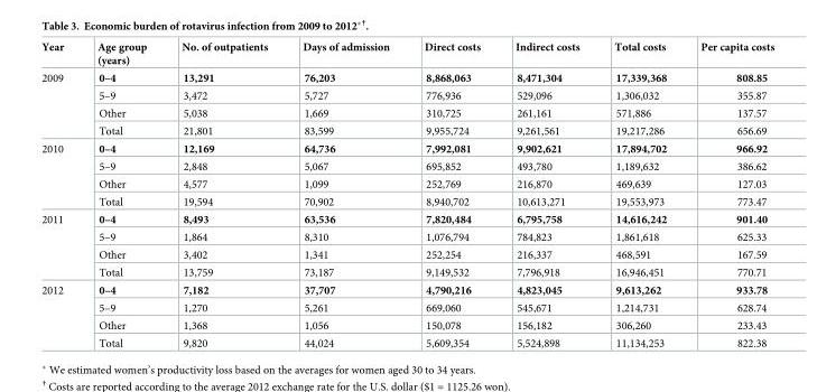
<table><thead><tr><td>Year</td><td>Age group (years)</td><td>No. of outpatients</td><td>Days of admission</td><td>Direct costs</td><td>Indirect costs</td><td>Total costs</td><td>Per capita costs</td></tr></thead><tbody><tr><td rowspan="4">2009</td><td>0–4</td><td>13,291</td><td>76,203</td><td>8,868,063</td><td>8,471,304</td><td>17,339,368</td><td>808.85</td></tr><tr><td>5–9</td><td>3,472</td><td>5,727</td><td>776,936</td><td>529,096</td><td>1,306,032</td><td>355.87</td></tr><tr><td>Other</td><td>5,038</td><td>1,669</td><td>310,725</td><td>261,161</td><td>571,886</td><td>137.57</td></tr><tr><td>Total</td><td>21,801</td><td>83,599</td><td>9,955,724</td><td>9,261,561</td><td>19,217,286</td><td>656.69</td></tr><tr><td rowspan="4">2010</td><td>0–4</td><td>12,169</td><td>64,736</td><td>7,992,081</td><td>9,902,621</td><td>17,894,702</td><td>966.92</td></tr><tr><td>5–9</td><td>2,848</td><td>5,067</td><td>695,852</td><td>493,780</td><td>1,189,632</td><td>386.62</td></tr><tr><td>Other</td><td>4,577</td><td>1,099</td><td>252,769</td><td>216,870</td><td>469,639</td><td>127.03</td></tr><tr><td>Total</td><td>19,594</td><td>70,902</td><td>8,940,702</td><td>10,613,271</td><td>19,553,973</td><td>773.47</td></tr><tr><td rowspan="4">2011</td><td>0–4</td><td>8,493</td><td>63,536</td><td>7,820,484</td><td>6,795,758</td><td>14,616,242</td><td>901.40</td></tr><tr><td>5–9</td><td>1,864</td><td>8,310</td><td>1,076,794</td><td>784,823</td><td>1,861,618</td><td>625.33</td></tr><tr><td>Other</td><td>3,402</td><td>1,341</td><td>252,254</td><td>216,337</td><td>468,591</td><td>167.59</td></tr><tr><td>Total</td><td>13,759</td><td>73,187</td><td>9,149,532</td><td>7,796,918</td><td>16,946,451</td><td>770.71</td></tr><tr><td rowspan="4">2012</td><td>0–4</td><td>7,182</td><td>37,707</td><td>4,790,216</td><td>4,823,045</td><td>9,613,262</td><td>933.78</td></tr><tr><td>5–9</td><td>1,270</td><td>5,261</td><td>669,060</td><td>545,671</td><td>1,214,731</td><td>628.74</td></tr><tr><td>Other</td><td>1,368</td><td>1,056</td><td>150,078</td><td>156,182</td><td>306,260</td><td>233.43</td></tr><tr><td>Total</td><td>9,820</td><td>44,024</td><td>5,609,354</td><td>5,524,898</td><td>11,134,253</td><td>822.38</td></tr></tbody></table>